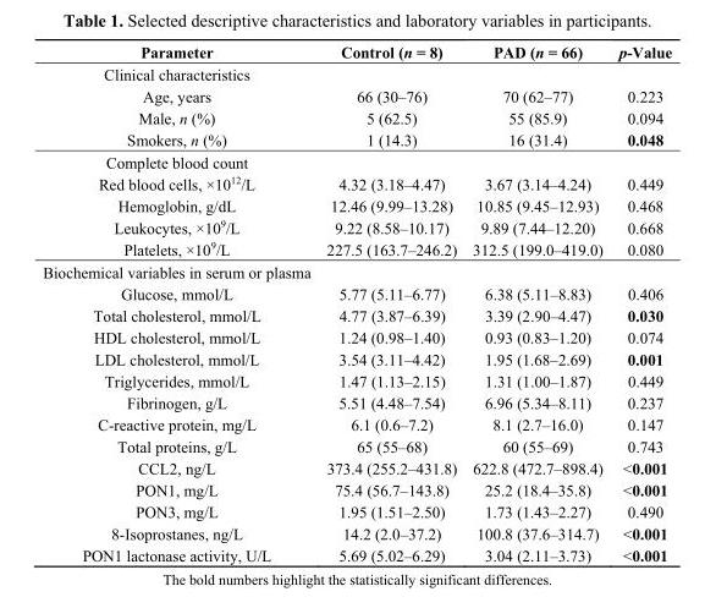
<table><thead><tr><td>Parameter</td><td>Control (n = 8)</td><td>PAD (n = 66)</td><td>p-Value</td></tr></thead><tbody><tr><td colspan="4">Clinical characteristics</td></tr><tr><td>Age, years</td><td>66 (30–76)</td><td>70 (62–77)</td><td>0.223</td></tr><tr><td>Male, n (%)</td><td>5 (62.5)</td><td>55 (85.9)</td><td>0.094</td></tr><tr><td>Smokers, n (%)</td><td>1 (14.3)</td><td>16 (31.4)</td><td>0.048</td></tr><tr><td colspan="4">Complete blood count</td></tr><tr><td>Red blood cells, ×10<sup>12</sup>/L</td><td>4.32 (3.18–4.47)</td><td>3.67 (3.14–4.24)</td><td>0.449</td></tr><tr><td>Hemoglobin, g/dL</td><td>12.46 (9.99–13.28)</td><td>10.85 (9.45–12.93)</td><td>0.468</td></tr><tr><td>Leukocytes, ×10<sup>9</sup>/L</td><td>9.22 (8.58–10.17)</td><td>9.89 (7.44–12.20)</td><td>0.668</td></tr><tr><td>Platelets, ×10<sup>9</sup>/L</td><td>227.5 (163.7–246.2)</td><td>312.5 (199.0–419.0)</td><td>0.080</td></tr><tr><td colspan="4">Biochemical variables in serum or plasma</td></tr><tr><td>Glucose, mmol/L</td><td>5.77 (5.11–6.77)</td><td>6.38 (5.11–8.83)</td><td>0.406</td></tr><tr><td>Total cholesterol, mmol/L</td><td>4.77 (3.87–6.39)</td><td>3.39 (2.90–4.47)</td><td>0.030</td></tr><tr><td>HDL cholesterol, mmol/L</td><td>1.24 (0.98–1.40)</td><td>0.93 (0.83–1.20)</td><td>0.074</td></tr><tr><td>LDL cholesterol, mmol/L</td><td>3.54 (3.11–4.42)</td><td>1.95 (1.68–2.69)</td><td>0.001</td></tr><tr><td>Triglycerides, mmol/L</td><td>1.47 (1.13–2.15)</td><td>1.31 (1.00–1.87)</td><td>0.449</td></tr><tr><td>Fibrinogen, g/L</td><td>5.51 (4.48–7.54)</td><td>6.96 (5.34–8.11)</td><td>0.237</td></tr><tr><td>C-reactive protein, mg/L</td><td>6.1 (0.6–7.2)</td><td>8.1 (2.7–16.0)</td><td>0.147</td></tr><tr><td>Total proteins, g/L</td><td>65 (55–68)</td><td>60 (55–69)</td><td>0.743</td></tr><tr><td>CCL2, ng/L</td><td>373.4 (255.2–431.8)</td><td>622.8 (472.7–898.4)</td><td>&lt;0.001</td></tr><tr><td>PON1, mg/L</td><td>75.4 (56.7–143.8)</td><td>25.2 (18.4–35.8)</td><td>&lt;0.001</td></tr><tr><td>PON3, mg/L</td><td>1.95 (1.51–2.50)</td><td>1.73 (1.43–2.27)</td><td>0.490</td></tr><tr><td>8-Isoprostanes, ng/L</td><td>14.2 (2.0–37.2)</td><td>100.8 (37.6–314.7)</td><td>&lt;0.001</td></tr><tr><td>PON1 lactonase activity, U/L</td><td>5.69 (5.02–6.29)</td><td>3.04 (2.11–3.73)</td><td>&lt;0.001</td></tr></tbody></table>